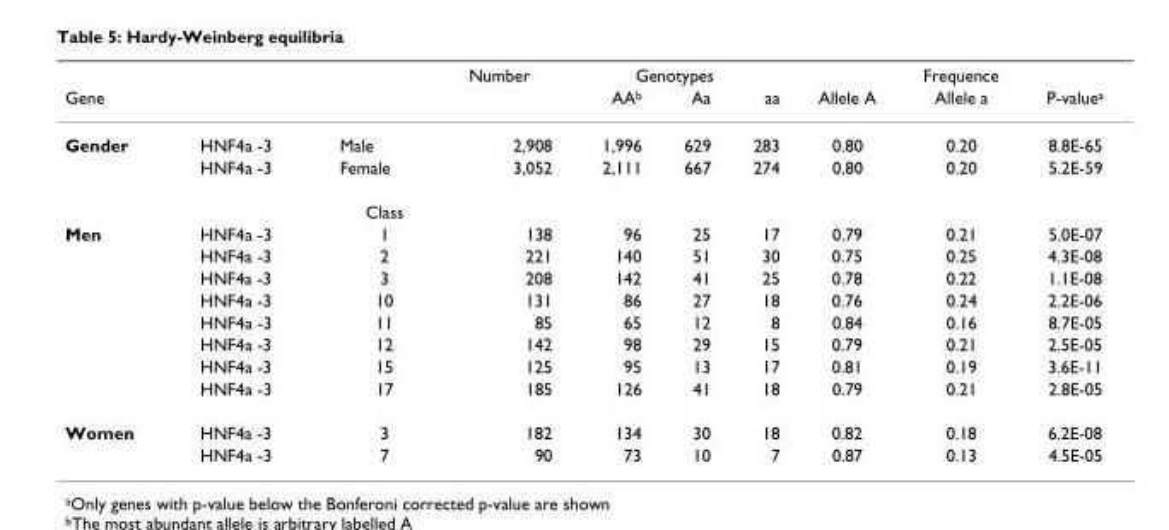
<table><thead><tr><td rowspan="2">Gene</td><td rowspan="2"></td><td rowspan="2"></td><td rowspan="2">Number</td><td colspan="3">Genotypes</td><td colspan="3">Frequence</td></tr><tr><td>AA<sup>b</sup></td><td>Aa</td><td>aa</td><td>Allele A</td><td>Allele a</td><td>P-value<sup>a</sup></td></tr></thead><tbody><tr><td rowspan="3">Gender</td><td>HNF4a -3</td><td>Male</td><td>2,908</td><td>1,996</td><td>629</td><td>283</td><td>0.80</td><td>0.20</td><td>8.8E-65</td></tr><tr><td>HNF4a -3</td><td>Female</td><td>3,052</td><td>2,111</td><td>667</td><td>274</td><td>0.80</td><td>0.20</td><td>5.2E-59</td></tr><tr><td></td><td>Class</td><td></td><td></td><td></td><td></td><td></td><td></td><td></td></tr><tr><td rowspan="8">Men</td><td>HNF4a -3</td><td>1</td><td>138</td><td>96</td><td>25</td><td>17</td><td>0.79</td><td>0.21</td><td>5.0E-07</td></tr><tr><td>HNF4a -3</td><td>2</td><td>221</td><td>140</td><td>51</td><td>30</td><td>0.75</td><td>0.25</td><td>4.3E-08</td></tr><tr><td>HNF4a -3</td><td>3</td><td>208</td><td>142</td><td>41</td><td>25</td><td>0.78</td><td>0.22</td><td>1.1E-08</td></tr><tr><td>HNF4a -3</td><td>10</td><td>131</td><td>86</td><td>27</td><td>18</td><td>0.76</td><td>0.24</td><td>2.2E-06</td></tr><tr><td>HNF4a -3</td><td>11</td><td>85</td><td>65</td><td>12</td><td>8</td><td>0.84</td><td>0.16</td><td>8.7E-05</td></tr><tr><td>HNF4a -3</td><td>12</td><td>142</td><td>98</td><td>29</td><td>15</td><td>0.79</td><td>0.21</td><td>2.5E-05</td></tr><tr><td>HNF4a -3</td><td>15</td><td>125</td><td>95</td><td>13</td><td>17</td><td>0.81</td><td>0.19</td><td>3.6E-11</td></tr><tr><td>HNF4a -3</td><td>17</td><td>185</td><td>126</td><td>41</td><td>18</td><td>0.79</td><td>0.21</td><td>2.8E-05</td></tr><tr><td rowspan="2">Women</td><td>HNF4a -3</td><td>3</td><td>182</td><td>134</td><td>30</td><td>18</td><td>0.82</td><td>0.18</td><td>6.2E-08</td></tr><tr><td>HNF4a -3</td><td>7</td><td>90</td><td>73</td><td>10</td><td>7</td><td>0.87</td><td>0.13</td><td>4.5E-05</td></tr></tbody></table>